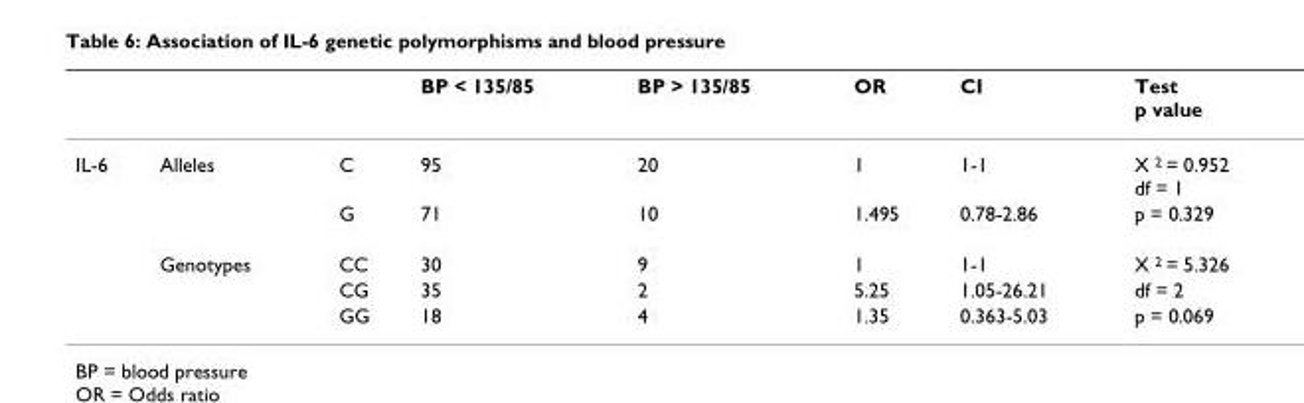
<table><thead><tr><td></td><td></td><td></td><td>BP &lt; 135/85</td><td>BP &gt; 135/85</td><td>OR</td><td>CI</td><td>Test p value</td></tr></thead><tbody><tr><td rowspan="5">IL-6</td><td>Alleles</td><td>C</td><td>95</td><td>20</td><td>1</td><td>1-1</td><td>X <sup>2</sup> = 0.952 df = 1</td></tr><tr><td></td><td>G</td><td>71</td><td>10</td><td>1.495</td><td>0.78-2.86</td><td>p = 0.329</td></tr><tr><td>Genotypes</td><td>CC</td><td>30</td><td>9</td><td>1</td><td>1-1</td><td>X <sup>2</sup> = 5.326</td></tr><tr><td></td><td>CG</td><td>35</td><td>2</td><td>5.25</td><td>1.05-26.21</td><td>df = 2</td></tr><tr><td></td><td>GG</td><td>18</td><td>4</td><td>1.35</td><td>0.363-5.03</td><td>p = 0.069</td></tr></tbody></table>